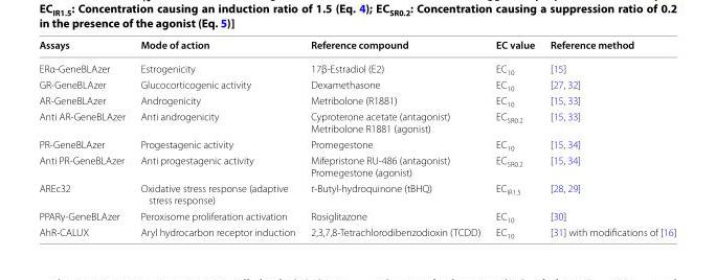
<table><thead><tr><td>Assays</td><td>Mode of action</td><td>Reference compound</td><td>EC value</td><td>Reference method</td></tr></thead><tbody><tr><td>ERα-GeneBLAzer</td><td>Estrogenicity</td><td>17β-Estradiol (E2)</td><td>EC<sub>10</sub></td><td>[15]</td></tr><tr><td>GR-GeneBLAzer</td><td>Glucocorticogenic activity</td><td>Dexamethasone</td><td>EC<sub>10</sub></td><td>[27, 32]</td></tr><tr><td>AR-GeneBLAzer</td><td>Androgenicity</td><td>Metribolone (R1881)</td><td>EC<sub>10</sub></td><td>[15, 33]</td></tr><tr><td>Anti AR-GeneBLAzer</td><td>Anti androgenicity</td><td>Cyproterone acetate (antagonist) Metribolone R1881 (agonist)</td><td>EC<sub>SR0.2</sub></td><td>[15, 33]</td></tr><tr><td>PR-GeneBLAzer</td><td>Progestagenic activity</td><td>Promegestone</td><td>EC<sub>10</sub></td><td>[15, 34]</td></tr><tr><td>Anti PR-GeneBLAzer</td><td>Anti progestagenic activity</td><td>Mifepristone RU-486 (antagonist) Promegestone (agonist)</td><td>EC<sub>SR0.2</sub></td><td>[15, 34]</td></tr><tr><td>AREc32</td><td>Oxidative stress response (adaptive stress response)</td><td>t-Butyl-hydroquinone (tBHQ)</td><td>EC<sub>IR1.5</sub></td><td>[28, 29]</td></tr><tr><td>PPARγ-GeneBLAzer</td><td>Peroxisome proliferation activation</td><td>Rosiglitazone</td><td>EC<sub>10</sub></td><td>[30]</td></tr><tr><td>AhR-CALUX</td><td>Aryl hydrocarbon receptor induction</td><td>2,3,7,8-Tetrachlorodibenzodioxin (TCDD)</td><td>EC<sub>10</sub></td><td>[31] with modifications of [16]</td></tr></tbody></table>